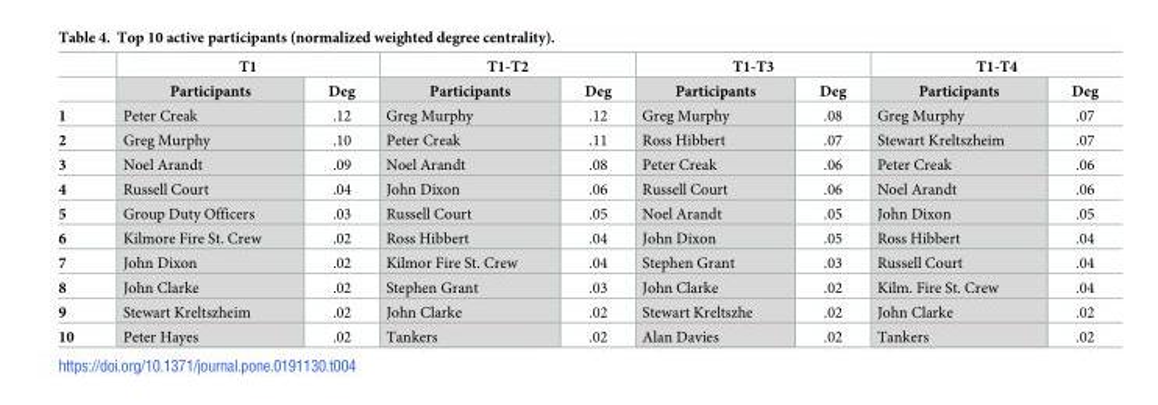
<table><thead><tr><td rowspan="2"></td><td colspan="2">T1</td><td colspan="2">T1-T2</td><td colspan="2">T1-T3</td><td colspan="2">T1-T4</td></tr><tr><td>Participants</td><td>Deg</td><td>Participants</td><td>Deg</td><td>Participants</td><td>Deg</td><td>Participants</td><td>Deg</td></tr></thead><tbody><tr><td>1</td><td>Peter Creak</td><td>.12</td><td>Greg Murphy</td><td>.12</td><td>Greg Murphy</td><td>.08</td><td>Greg Murphy</td><td>.07</td></tr><tr><td>2</td><td>Greg Murphy</td><td>.10</td><td>Peter Creak</td><td>.11</td><td>Ross Hibbert</td><td>.07</td><td>Stewart Kreltszheim</td><td>.07</td></tr><tr><td>3</td><td>Noel Arandt</td><td>.09</td><td>Noel Arandt</td><td>.08</td><td>Peter Creak</td><td>.06</td><td>Peter Creak</td><td>.06</td></tr><tr><td>4</td><td>Russell Court</td><td>.04</td><td>John Dixon</td><td>.06</td><td>Russell Court</td><td>.06</td><td>Noel Arandt</td><td>.06</td></tr><tr><td>5</td><td>Group Duty Officers</td><td>.03</td><td>Russell Court</td><td>.05</td><td>Noel Arandt</td><td>.05</td><td>John Dixon</td><td>.05</td></tr><tr><td>6</td><td>Kilmore Fire St. Crew</td><td>.02</td><td>Ross Hibbert</td><td>.04</td><td>John Dixon</td><td>.05</td><td>Ross Hibbert</td><td>.04</td></tr><tr><td>7</td><td>John Dixon</td><td>.02</td><td>Kilmor Fire St. Crew</td><td>.04</td><td>Stephen Grant</td><td>.03</td><td>Russell Court</td><td>.04</td></tr><tr><td>8</td><td>John Clarke</td><td>.02</td><td>Stephen Grant</td><td>.03</td><td>John Clarke</td><td>.02</td><td>Kilm. Fire St. Crew</td><td>.04</td></tr><tr><td>9</td><td>Stewart Kreltszheim</td><td>.02</td><td>John Clarke</td><td>.02</td><td>Stewart Kreltszhe</td><td>.02</td><td>John Clarke</td><td>.02</td></tr><tr><td>10</td><td>Peter Hayes</td><td>.02</td><td>Tankers</td><td>.02</td><td>Alan Davies</td><td>.02</td><td>Tankers</td><td>.02</td></tr></tbody></table>